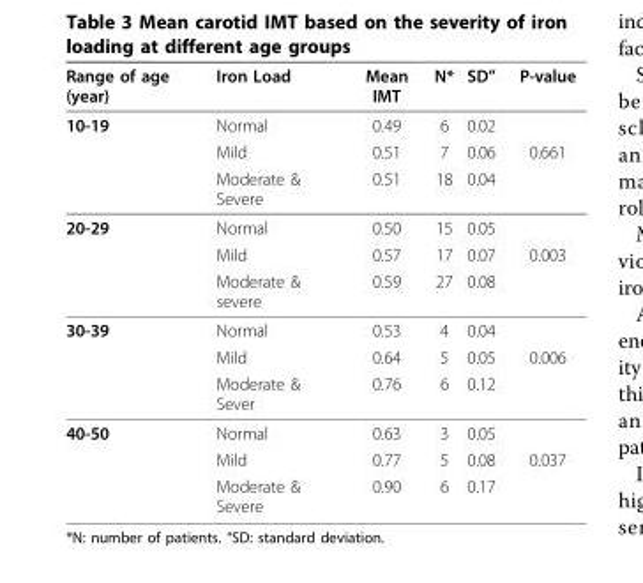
<table><thead><tr><td>Range of age (year)</td><td>Iron Load</td><td>Mean IMT</td><td>N*</td><td>SD”</td><td>P-value</td></tr></thead><tbody><tr><td rowspan="3">10-19</td><td>Normal</td><td>0.49</td><td>6</td><td>0.02</td><td></td></tr><tr><td>Mild</td><td>0.51</td><td>7</td><td>0.06</td><td>0.661</td></tr><tr><td>Moderate &amp; Severe</td><td>0.51</td><td>18</td><td>0.04</td><td></td></tr><tr><td rowspan="3">20-29</td><td>Normal</td><td>0.50</td><td>15</td><td>0.05</td><td></td></tr><tr><td>Mild</td><td>0.57</td><td>17</td><td>0.07</td><td>0.003</td></tr><tr><td>Moderate &amp; severe</td><td>0.59</td><td>27</td><td>0.08</td><td></td></tr><tr><td rowspan="3">30-39</td><td>Normal</td><td>0.53</td><td>4</td><td>0.04</td><td></td></tr><tr><td>Mild</td><td>0.64</td><td>5</td><td>0.05</td><td>0.006</td></tr><tr><td>Moderate &amp; Sever</td><td>0.76</td><td>6</td><td>0.12</td><td></td></tr><tr><td rowspan="3">40-50</td><td>Normal</td><td>0.63</td><td>3</td><td>0.05</td><td></td></tr><tr><td>Mild</td><td>0.77</td><td>5</td><td>0.08</td><td>0.037</td></tr><tr><td>Moderate &amp; Severe</td><td>0.90</td><td>6</td><td>0.17</td><td></td></tr></tbody></table>